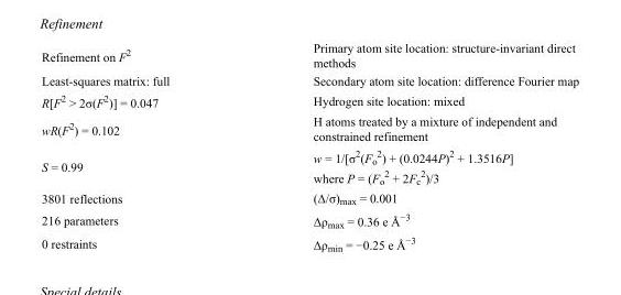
<table><tbody><tr><td>Refinement on F<sup>2</sup></td><td>Primary atom site location: structure-invariant direct methods</td></tr><tr><td>Least-squares matrix: full</td><td>Secondary atom site location: difference Fourier map</td></tr><tr><td>R[F<sup>2</sup> &gt; 2σ(F<sup>2</sup>)] = 0.047</td><td>Hydrogen site location: mixed</td></tr><tr><td>wR(F<sup>2</sup>) = 0.102</td><td>H atoms treated by a mixture of independent and constrained refinement</td></tr><tr><td>S = 0.99</td><td>w = 1/[σ<sup>2</sup>(F<sub>o</sub> <sup>2</sup>) + (0.0244P)<sup>2</sup> + 1.3516P] where P = (F<sub>o</sub> <sup>2</sup> + 2F<sub>c</sub> <sup>2</sup>)/3</td></tr><tr><td>3801 reflections</td><td>(Δ/σ)<sub>max</sub> = 0.001</td></tr><tr><td>216 parameters</td><td>Δρ<sub>max</sub> = 0.36 e Å<sup>−3</sup></td></tr><tr><td>0 restraints</td><td>Δρ<sub>min</sub> = −0.25 e Å<sup>−3</sup></td></tr></tbody></table>